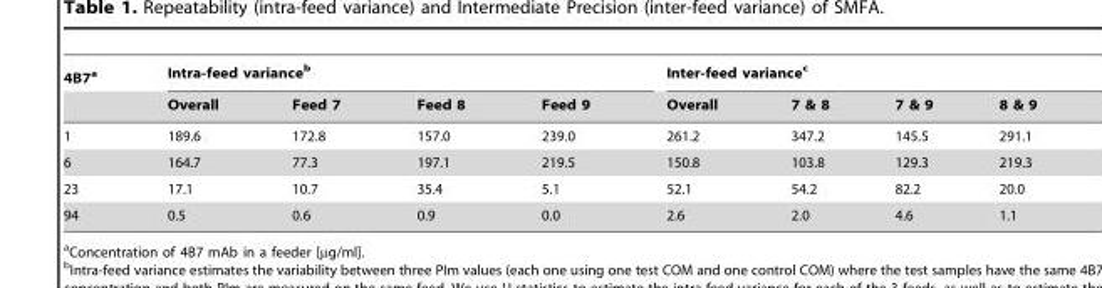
<table><thead><tr><td rowspan="2">4B7<sup>a</sup></td><td colspan="4">Intra-feed variance<sup>b</sup></td><td colspan="4">Inter-feed variance<sup>c</sup></td></tr><tr><td>Overall</td><td>Feed 7</td><td>Feed 8</td><td>Feed 9</td><td>Overall</td><td>7 &amp; 8</td><td>7 &amp; 9</td><td>8 &amp; 9</td></tr></thead><tbody><tr><td>1</td><td>189.6</td><td>172.8</td><td>157.0</td><td>239.0</td><td>261.2</td><td>347.2</td><td>145.5</td><td>291.1</td></tr><tr><td>6</td><td>164.7</td><td>77.3</td><td>197.1</td><td>219.5</td><td>150.8</td><td>103.8</td><td>129.3</td><td>219.3</td></tr><tr><td>23</td><td>17.1</td><td>10.7</td><td>35.4</td><td>5.1</td><td>52.1</td><td>54.2</td><td>82.2</td><td>20.0</td></tr><tr><td>94</td><td>0.5</td><td>0.6</td><td>0.9</td><td>0.0</td><td>2.6</td><td>2.0</td><td>4.6</td><td>1.1</td></tr></tbody></table>